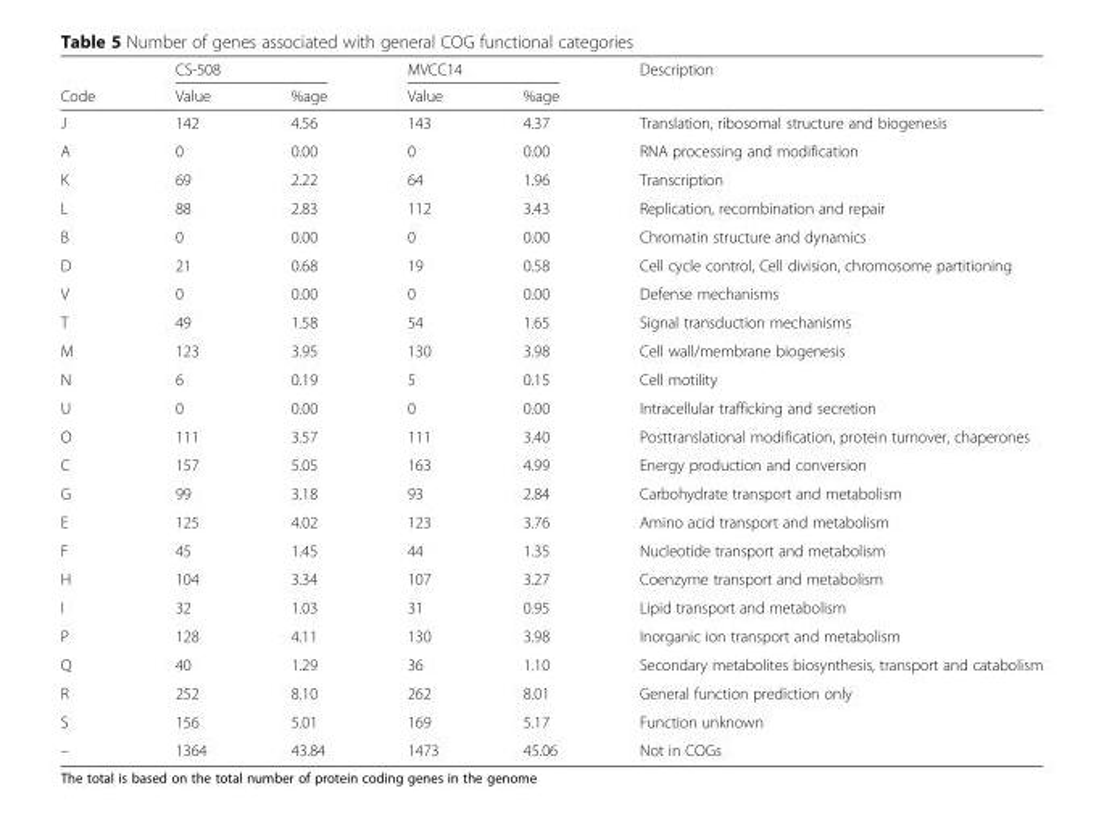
<table><thead><tr><td rowspan="2">Code</td><td colspan="2">CS-508</td><td colspan="2">MVCC14</td><td rowspan="2">Description</td></tr><tr><td>Value</td><td>%age</td><td>Value</td><td>%age</td></tr></thead><tbody><tr><td>J</td><td>142</td><td>4.56</td><td>143</td><td>4.37</td><td>Translation, ribosomal structure and biogenesis</td></tr><tr><td>A</td><td>0</td><td>0.00</td><td>0</td><td>0.00</td><td>RNA processing and modification</td></tr><tr><td>K</td><td>69</td><td>2.22</td><td>64</td><td>1.96</td><td>Transcription</td></tr><tr><td>L</td><td>88</td><td>2.83</td><td>112</td><td>3.43</td><td>Replication, recombination and repair</td></tr><tr><td>B</td><td>0</td><td>0.00</td><td>0</td><td>0.00</td><td>Chromatin structure and dynamics</td></tr><tr><td>D</td><td>21</td><td>0.68</td><td>19</td><td>0.58</td><td>Cell cycle control, Cell division, chromosome partitioning</td></tr><tr><td>V</td><td>0</td><td>0.00</td><td>0</td><td>0.00</td><td>Defense mechanisms</td></tr><tr><td>T</td><td>49</td><td>1.58</td><td>54</td><td>1.65</td><td>Signal transduction mechanisms</td></tr><tr><td>M</td><td>123</td><td>3.95</td><td>130</td><td>3.98</td><td>Cell wall/membrane biogenesis</td></tr><tr><td>N</td><td>6</td><td>0.19</td><td>5</td><td>0.15</td><td>Cell motility</td></tr><tr><td>U</td><td>0</td><td>0.00</td><td>0</td><td>0.00</td><td>Intracellular trafficking and secretion</td></tr><tr><td>O</td><td>111</td><td>3.57</td><td>111</td><td>3.40</td><td>Posttranslational modification, protein turnover, chaperones</td></tr><tr><td>C</td><td>157</td><td>5.05</td><td>163</td><td>4.99</td><td>Energy production and conversion</td></tr><tr><td>G</td><td>99</td><td>3.18</td><td>93</td><td>2.84</td><td>Carbohydrate transport and metabolism</td></tr><tr><td>E</td><td>125</td><td>4.02</td><td>123</td><td>3.76</td><td>Amino acid transport and metabolism</td></tr><tr><td>F</td><td>45</td><td>1.45</td><td>44</td><td>1.35</td><td>Nucleotide transport and metabolism</td></tr><tr><td>H</td><td>104</td><td>3.34</td><td>107</td><td>3.27</td><td>Coenzyme transport and metabolism</td></tr><tr><td>I</td><td>32</td><td>1.03</td><td>31</td><td>0.95</td><td>Lipid transport and metabolism</td></tr><tr><td>P</td><td>128</td><td>4.11</td><td>130</td><td>3.98</td><td>Inorganic ion transport and metabolism</td></tr><tr><td>Q</td><td>40</td><td>1.29</td><td>36</td><td>1.10</td><td>Secondary metabolites biosynthesis, transport and catabolism</td></tr><tr><td>R</td><td>252</td><td>8.10</td><td>262</td><td>8.01</td><td>General function prediction only</td></tr><tr><td>S</td><td>156</td><td>5.01</td><td>169</td><td>5.17</td><td>Function unknown</td></tr><tr><td>–</td><td>1364</td><td>43.84</td><td>1473</td><td>45.06</td><td>Not in COGs</td></tr></tbody></table>